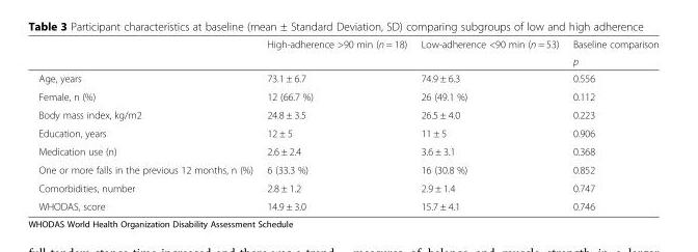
<table><thead><tr><td rowspan="2"></td><td rowspan="2">High-adherence &gt;90 min (n = 18)</td><td rowspan="2">Low-adherence &lt;90 min (n = 53)</td><td rowspan="2">Baseline comparison p</td></tr><tr></tr></thead><tbody><tr><td>Age, years</td><td>73.1 ± 6.7</td><td>74.9 ± 6.3</td><td>0.556</td></tr><tr><td>Female, n (%)</td><td>12 (66.7 %)</td><td>26 (49.1 %)</td><td>0.112</td></tr><tr><td>Body mass index, kg/m2</td><td>24.8 ± 3.5</td><td>26.5 ± 4.0</td><td>0.223</td></tr><tr><td>Education, years</td><td>12 ± 5</td><td>11 ± 5</td><td>0.906</td></tr><tr><td>Medication use (n)</td><td>2.6 ± 2.4</td><td>3.6 ± 3.1</td><td>0.368</td></tr><tr><td>One or more falls in the previous 12 months, n (%)</td><td>6 (33.3 %)</td><td>16 (30.8 %)</td><td>0.852</td></tr><tr><td>Comorbidities, number</td><td>2.8 ± 1.2</td><td>2.9 ± 1.4</td><td>0.747</td></tr><tr><td>WHODAS, score</td><td>14.9 ± 3.0</td><td>15.7 ± 4.1</td><td>0.746</td></tr></tbody></table>